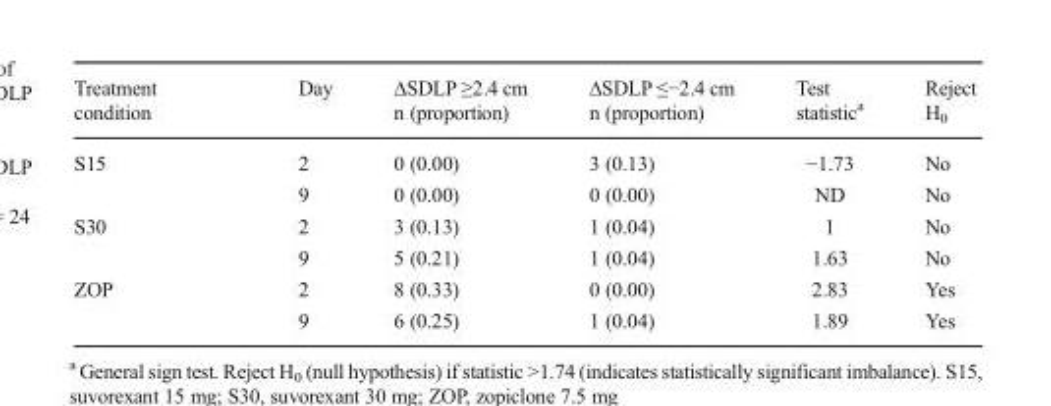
<table><thead><tr><td>Treatment condition</td><td>Day</td><td>ΔSDLP ≥2.4 cm n (proportion)</td><td>ΔSDLP ≤−2.4 cm n (proportion)</td><td>Test statistic<sup>a</sup></td><td>Reject H<sub>0</sub></td></tr></thead><tbody><tr><td rowspan="2">S15</td><td>2</td><td>0 (0.00)</td><td>3 (0.13)</td><td>−1.73</td><td>No</td></tr><tr><td>9</td><td>0 (0.00)</td><td>0 (0.00)</td><td>ND</td><td>No</td></tr><tr><td rowspan="2">S30</td><td>2</td><td>3 (0.13)</td><td>1 (0.04)</td><td>1</td><td>No</td></tr><tr><td>9</td><td>5 (0.21)</td><td>1 (0.04)</td><td>1.63</td><td>No</td></tr><tr><td rowspan="2">ZOP</td><td>2</td><td>8 (0.33)</td><td>0 (0.00)</td><td>2.83</td><td>Yes</td></tr><tr><td>9</td><td>6 (0.25)</td><td>1 (0.04)</td><td>1.89</td><td>Yes</td></tr></tbody></table>